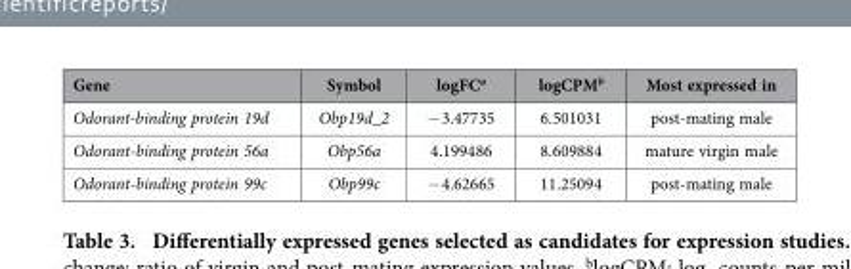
<table><thead><tr><td>Gene</td><td>Symbol</td><td>logFC<sup>a</sup></td><td>logCPM<sup>b</sup></td><td>Most expressed in</td></tr></thead><tbody><tr><td>Odorant-binding protein 19d</td><td>Obp19d_2</td><td>− 3.47735</td><td>6.501031</td><td>post-mating male</td></tr><tr><td>Odorant-binding protein 56a</td><td>Obp56a</td><td>4.199486</td><td>8.609884</td><td>mature virgin male</td></tr><tr><td>Odorant-binding protein 99c</td><td>Obp99c</td><td>− 4.62665</td><td>11.25094</td><td>post-mating male</td></tr></tbody></table>